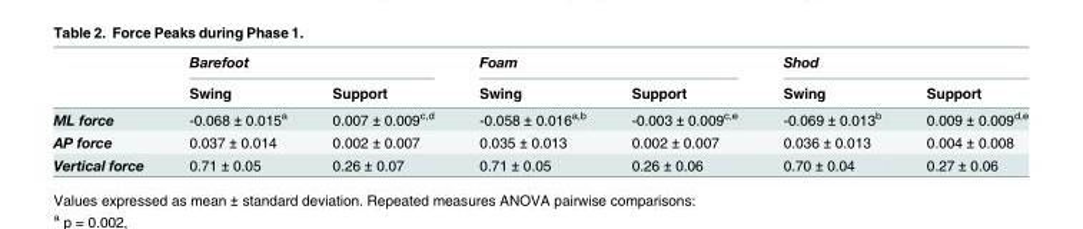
<table><thead><tr><td rowspan="2"></td><td colspan="2">Barefoot</td><td colspan="2">Foam</td><td colspan="2">Shod</td></tr><tr><td>Swing</td><td>Support</td><td>Swing</td><td>Support</td><td>Swing</td><td>Support</td></tr></thead><tbody><tr><td>ML force</td><td>-0.068 ± 0.015<sup>a</sup></td><td>0.007 ± 0.009<sup>c,d</sup></td><td>-0.058 ± 0.016<sup>a,b</sup></td><td>-0.003 ± 0.009<sup>c,e</sup></td><td>-0.069 ± 0.013<sup>b</sup></td><td>0.009 ± 0.009<sup>d,e</sup></td></tr><tr><td>AP force</td><td>0.037 ± 0.014</td><td>0.002 ± 0.007</td><td>0.035 ± 0.013</td><td>0.002 ± 0.007</td><td>0.036 ± 0.013</td><td>0.004 ± 0.008</td></tr><tr><td>Vertical force</td><td>0.71 ± 0.05</td><td>0.26 ± 0.07</td><td>0.71 ± 0.05</td><td>0.26 ± 0.06</td><td>0.70 ± 0.04</td><td>0.27 ± 0.06</td></tr></tbody></table>